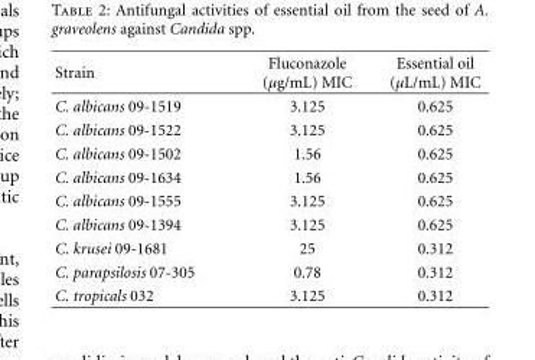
<table><thead><tr><td>Strain</td><td>Fluconazole (µg/mL) MIC</td><td>Essential oil (µL/mL) MIC</td></tr></thead><tbody><tr><td>C. albicans 09-1519</td><td>3.125</td><td>0.625</td></tr><tr><td>C. albicans 09-1522</td><td>3.125</td><td>0.625</td></tr><tr><td>C. albicans 09-1502</td><td>1.56</td><td>0.625</td></tr><tr><td>C. albicans 09-1634</td><td>1.56</td><td>0.625</td></tr><tr><td>C. albicans 09-1555</td><td>3.125</td><td>0.625</td></tr><tr><td>C. albicans 09-1394</td><td>3.125</td><td>0.625</td></tr><tr><td>C. krusei 09-1681</td><td>25</td><td>0.312</td></tr><tr><td>C. parapsilosis 07-305</td><td>0.78</td><td>0.312</td></tr><tr><td>C. tropicals 032</td><td>3.125</td><td>0.312</td></tr></tbody></table>